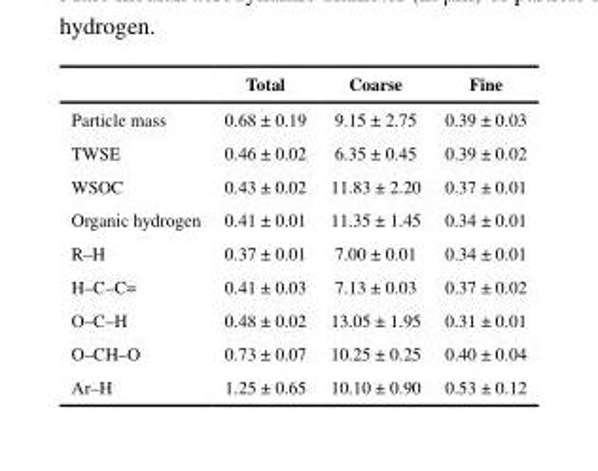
<table><thead><tr><td></td><td>Total</td><td>Coarse</td><td>Fine</td></tr></thead><tbody><tr><td>Particle mass</td><td>0.68 ± 0.19</td><td>9.15 ± 2.75</td><td>0.39 ± 0.03</td></tr><tr><td>TWSE</td><td>0.46 ± 0.02</td><td>6.35 ± 0.45</td><td>0.39 ± 0.02</td></tr><tr><td>WSOC</td><td>0.43 ± 0.02</td><td>11.83 ± 2.20</td><td>0.37 ± 0.01</td></tr><tr><td>Organic hydrogen</td><td>0.41 ± 0.01</td><td>11.35 ± 1.45</td><td>0.34 ± 0.01</td></tr><tr><td>R–H</td><td>0.37 ± 0.01</td><td>7.00 ± 0.01</td><td>0.34 ± 0.01</td></tr><tr><td>H–C–C=</td><td>0.41 ± 0.03</td><td>7.13 ± 0.03</td><td>0.37 ± 0.02</td></tr><tr><td>O–C–H</td><td>0.48 ± 0.02</td><td>13.05 ± 1.95</td><td>0.31 ± 0.01</td></tr><tr><td>O–CH–O</td><td>0.73 ± 0.07</td><td>10.25 ± 0.25</td><td>0.40 ± 0.04</td></tr><tr><td>Ar–H</td><td>1.25 ± 0.65</td><td>10.10 ± 0.90</td><td>0.53 ± 0.12</td></tr></tbody></table>